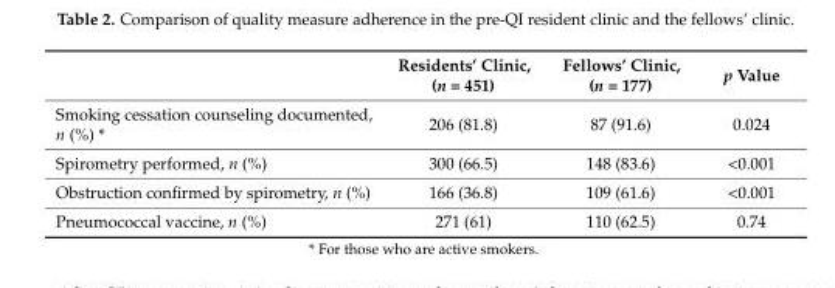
<table><thead><tr><td></td><td>Residents’ Clinic, (n = 451)</td><td>Fellows’ Clinic, (n = 177)</td><td>p Value</td></tr></thead><tbody><tr><td>Smoking cessation counseling documented, n (%) *</td><td>206 (81.8)</td><td>87 (91.6)</td><td>0.024</td></tr><tr><td>Spirometry performed, n (%)</td><td>300 (66.5)</td><td>148 (83.6)</td><td>&lt;0.001</td></tr><tr><td>Obstruction confirmed by spirometry, n (%)</td><td>166 (36.8)</td><td>109 (61.6)</td><td>&lt;0.001</td></tr><tr><td>Pneumococcal vaccine, n (%)</td><td>271 (61)</td><td>110 (62.5)</td><td>0.74</td></tr></tbody></table>